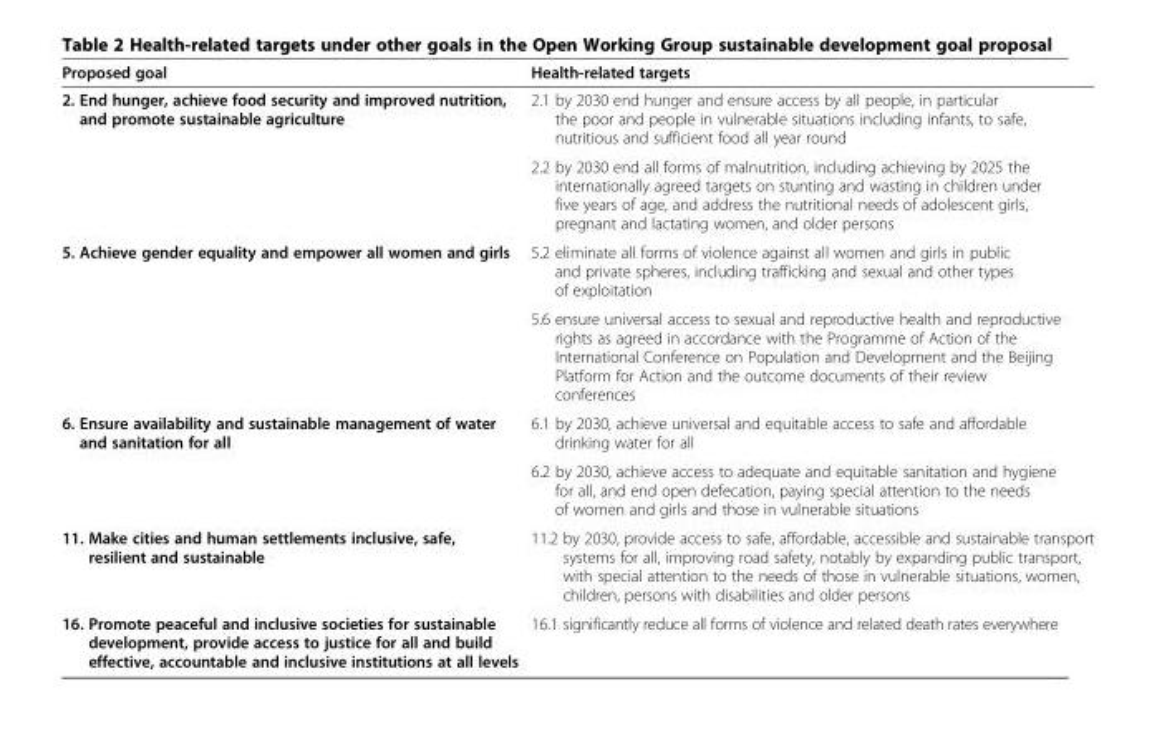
<table><thead><tr><td>Proposed goal</td><td>Health-related targets</td></tr></thead><tbody><tr><td rowspan="2">2. End hunger, achieve food security and improved nutrition, and promote sustainable agriculture</td><td>2.1 by 2030 end hunger and ensure access by all people, in particular the poor and people in vulnerable situations including infants, to safe, nutritious and sufficient food all year round</td></tr><tr><td>2.2 by 2030 end all forms of malnutrition, including achieving by 2025 the internationally agreed targets on stunting and wasting in children under five years of age, and address the nutritional needs of adolescent girls, pregnant and lactating women, and older persons</td></tr><tr><td rowspan="2">5. Achieve gender equality and empower all women and girls</td><td>5.2 eliminate all forms of violence against all women and girls in public and private spheres, including trafficking and sexual and other types of exploitation</td></tr><tr><td>5.6 ensure universal access to sexual and reproductive health and reproductive rights as agreed in accordance with the Programme of Action of the International Conference on Population and Development and the Beijing Platform for Action and the outcome documents of their review conferences</td></tr><tr><td rowspan="2">6. Ensure availability and sustainable management of water and sanitation for all</td><td>6.1 by 2030, achieve universal and equitable access to safe and affordable drinking water for all</td></tr><tr><td>6.2 by 2030, achieve access to adequate and equitable sanitation and hygiene for all, and end open defecation, paying special attention to the needs of women and girls and those in vulnerable situations</td></tr><tr><td>11. Make cities and human settlements inclusive, safe, resilient and sustainable</td><td>11.2 by 2030, provide access to safe, affordable, accessible and sustainable transport systems for all, improving road safety, notably by expanding public transport, with special attention to the needs of those in vulnerable situations, women, children, persons with disabilities and older persons</td></tr><tr><td>16. Promote peaceful and inclusive societies for sustainable development, provide access to justice for all and build effective, accountable and inclusive institutions at all levels</td><td>16.1 significantly reduce all forms of violence and related death rates everywhere</td></tr></tbody></table>